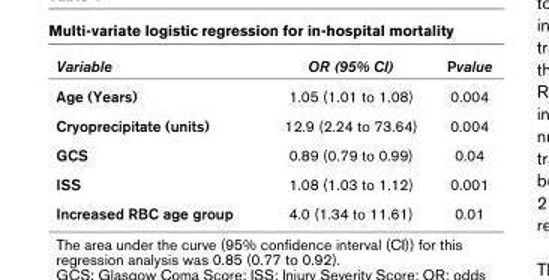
<table><thead><tr><td>Variable</td><td>OR (95% CI)</td><td>Pvalue</td></tr></thead><tbody><tr><td>Age (Years)</td><td>1.05 (1.01 to 1.08)</td><td>0.004</td></tr><tr><td>Cryoprecipitate (units)</td><td>12.9 (2.24 to 73.64)</td><td>0.004</td></tr><tr><td>GCS</td><td>0.89 (0.79 to 0.99)</td><td>0.04</td></tr><tr><td>ISS</td><td>1.08 (1.03 to 1.12)</td><td>0.001</td></tr><tr><td>Increased RBC age group</td><td>4.0 (1.34 to 11.61)</td><td>0.01</td></tr></tbody></table>